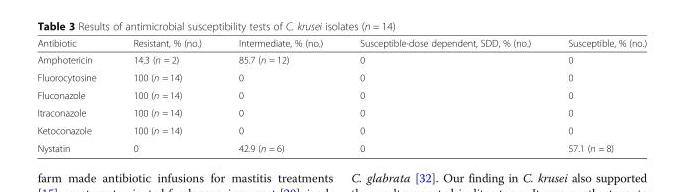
<table><thead><tr><td>Antibiotic</td><td>Resistant, % (no.)</td><td>Intermediate, % (no.)</td><td>Susceptible-dose dependent, SDD, % (no.)</td><td>Susceptible, % (no.)</td></tr></thead><tbody><tr><td>Amphotericin</td><td>14.3 (n = 2)</td><td>85.7 (n = 12)</td><td>0</td><td>0</td></tr><tr><td>Fluorocytosine</td><td>100 (n = 14)</td><td>0</td><td>0</td><td>0</td></tr><tr><td>Fluconazole</td><td>100 (n = 14)</td><td>0</td><td>0</td><td>0</td></tr><tr><td>Itraconazole</td><td>100 (n = 14)</td><td>0</td><td>0</td><td>0</td></tr><tr><td>Ketoconazole</td><td>100 (n = 14)</td><td>0</td><td>0</td><td>0</td></tr><tr><td>Nystatin</td><td>0</td><td>42.9 (n = 6)</td><td>0</td><td>57.1 (n = 8)</td></tr></tbody></table>